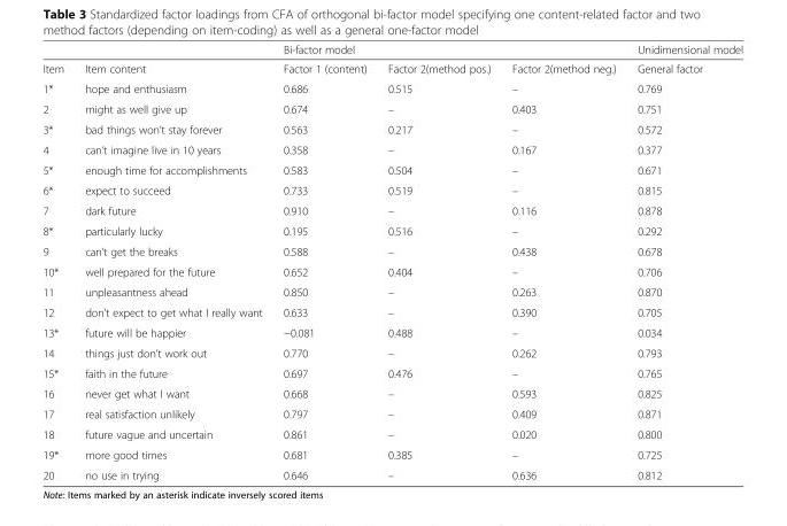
<table><thead><tr><td rowspan="2">Item</td><td rowspan="2">Item content</td><td colspan="3">Bi-factor model</td><td rowspan="2">Unidimensional model General factor</td></tr><tr><td>Factor 1 (content)</td><td>Factor 2(method pos.)</td><td>Factor 2(method neg.)</td></tr></thead><tbody><tr><td>1*</td><td>hope and enthusiasm</td><td>0.686</td><td>0.515</td><td>–</td><td>0.769</td></tr><tr><td>2</td><td>might as well give up</td><td>0.674</td><td>–</td><td>0.403</td><td>0.751</td></tr><tr><td>3*</td><td>bad things won’t stay forever</td><td>0.563</td><td>0.217</td><td>–</td><td>0.572</td></tr><tr><td>4</td><td>can’t imagine live in 10 years</td><td>0.358</td><td>–</td><td>0.167</td><td>0.377</td></tr><tr><td>5*</td><td>enough time for accomplishments</td><td>0.583</td><td>0.504</td><td>–</td><td>0.671</td></tr><tr><td>6*</td><td>expect to succeed</td><td>0.733</td><td>0.519</td><td>–</td><td>0.815</td></tr><tr><td>7</td><td>dark future</td><td>0.910</td><td>–</td><td>0.116</td><td>0.878</td></tr><tr><td>8*</td><td>particularly lucky</td><td>0.195</td><td>0.516</td><td>–</td><td>0.292</td></tr><tr><td>9</td><td>can’t get the breaks</td><td>0.588</td><td>–</td><td>0.438</td><td>0.678</td></tr><tr><td>10*</td><td>well prepared for the future</td><td>0.652</td><td>0.404</td><td>–</td><td>0.706</td></tr><tr><td>11</td><td>unpleasantness ahead</td><td>0.850</td><td>–</td><td>0.263</td><td>0.870</td></tr><tr><td>12</td><td>don’t expect to get what I really want</td><td>0.633</td><td>–</td><td>0.390</td><td>0.705</td></tr><tr><td>13*</td><td>future will be happier</td><td>−0.081</td><td>0.488</td><td>–</td><td>0.034</td></tr><tr><td>14</td><td>things just don’t work out</td><td>0.770</td><td>–</td><td>0.262</td><td>0.793</td></tr><tr><td>15*</td><td>faith in the future</td><td>0.697</td><td>0.476</td><td>–</td><td>0.765</td></tr><tr><td>16</td><td>never get what I want</td><td>0.668</td><td>–</td><td>0.593</td><td>0.825</td></tr><tr><td>17</td><td>real satisfaction unlikely</td><td>0.797</td><td>–</td><td>0.409</td><td>0.871</td></tr><tr><td>18</td><td>future vague and uncertain</td><td>0.861</td><td>–</td><td>0.020</td><td>0.800</td></tr><tr><td>19*</td><td>more good times</td><td>0.681</td><td>0.385</td><td>–</td><td>0.725</td></tr><tr><td>20</td><td>no use in trying</td><td>0.646</td><td>–</td><td>0.636</td><td>0.812</td></tr></tbody></table>